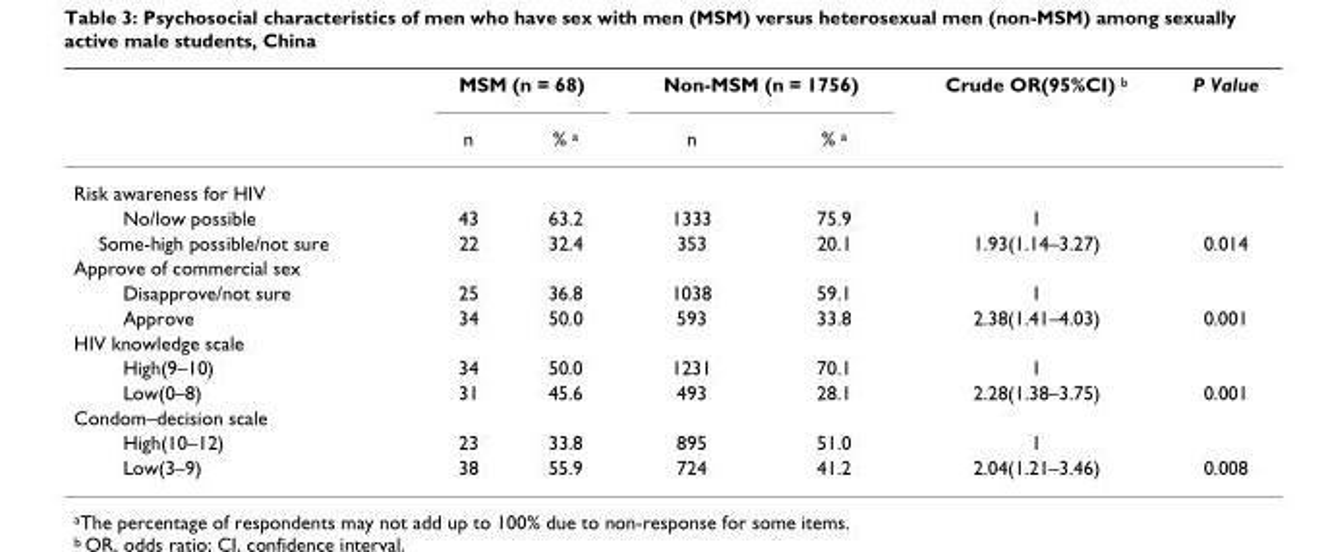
<table><thead><tr><td rowspan="2"></td><td colspan="2">MSM (n = 68)</td><td colspan="2">Non-MSM (n = 1756)</td><td rowspan="2">Crude OR(95%CI) <sup>b</sup></td><td rowspan="2">P Value</td></tr><tr><td>n</td><td>% <sup>a</sup></td><td>n</td><td>% <sup>a</sup></td></tr></thead><tbody><tr><td colspan="7">Risk awareness for HIV</td></tr><tr><td>No/low possible</td><td>43</td><td>63.2</td><td>1333</td><td>75.9</td><td>1</td><td></td></tr><tr><td>Some-high possible/not sure</td><td>22</td><td>32.4</td><td>353</td><td>20.1</td><td>1.93(1.14–3.27)</td><td>0.014</td></tr><tr><td colspan="7">Approve of commercial sex</td></tr><tr><td>Disapprove/not sure</td><td>25</td><td>36.8</td><td>1038</td><td>59.1</td><td>1</td><td></td></tr><tr><td>Approve</td><td>34</td><td>50.0</td><td>593</td><td>33.8</td><td>2.38(1.41–4.03)</td><td>0.001</td></tr><tr><td colspan="7">HIV knowledge scale</td></tr><tr><td>High(9–10)</td><td>34</td><td>50.0</td><td>1231</td><td>70.1</td><td>1</td><td></td></tr><tr><td>Low(0–8)</td><td>31</td><td>45.6</td><td>493</td><td>28.1</td><td>2.28(1.38–3.75)</td><td>0.001</td></tr><tr><td colspan="7">Condom–decision scale</td></tr><tr><td>High(10–12)</td><td>23</td><td>33.8</td><td>895</td><td>51.0</td><td>1</td><td></td></tr><tr><td>Low(3–9)</td><td>38</td><td>55.9</td><td>724</td><td>41.2</td><td>2.04(1.21–3.46)</td><td>0.008</td></tr></tbody></table>